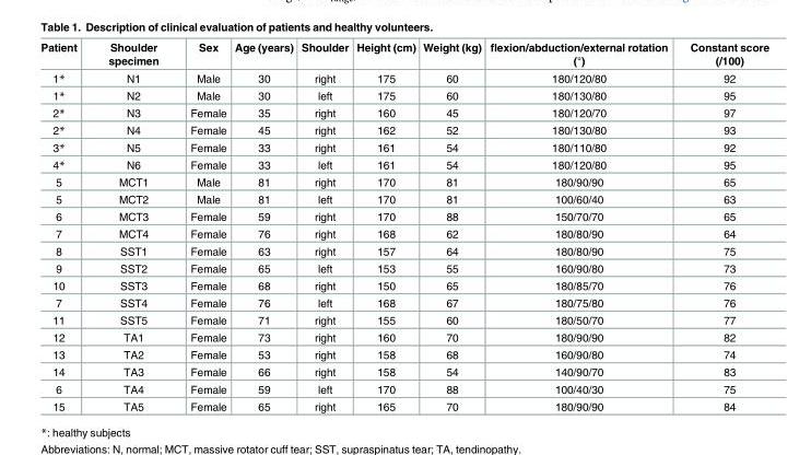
<table><thead><tr><td>Patient</td><td>Shoulder specimen</td><td>Sex</td><td>Age (years)</td><td>Shoulder</td><td>Height (cm)</td><td>Weight (kg)</td><td>flexion/abduction/external rotation (°)</td><td>Constant score (/100)</td></tr></thead><tbody><tr><td>1*</td><td>N1</td><td>Male</td><td>30</td><td>right</td><td>175</td><td>60</td><td>180/120/80</td><td>92</td></tr><tr><td>1*</td><td>N2</td><td>Male</td><td>30</td><td>left</td><td>175</td><td>60</td><td>180/130/80</td><td>95</td></tr><tr><td>2*</td><td>N3</td><td>Female</td><td>35</td><td>right</td><td>160</td><td>45</td><td>180/120/70</td><td>97</td></tr><tr><td>2*</td><td>N4</td><td>Female</td><td>45</td><td>right</td><td>162</td><td>52</td><td>180/130/80</td><td>93</td></tr><tr><td>3*</td><td>N5</td><td>Female</td><td>33</td><td>right</td><td>161</td><td>54</td><td>180/110/80</td><td>92</td></tr><tr><td>4*</td><td>N6</td><td>Female</td><td>33</td><td>left</td><td>161</td><td>54</td><td>180/120/80</td><td>95</td></tr><tr><td>5</td><td>MCT1</td><td>Male</td><td>81</td><td>right</td><td>170</td><td>81</td><td>180/90/90</td><td>65</td></tr><tr><td>5</td><td>MCT2</td><td>Male</td><td>81</td><td>left</td><td>170</td><td>81</td><td>100/60/40</td><td>63</td></tr><tr><td>6</td><td>MCT3</td><td>Female</td><td>59</td><td>right</td><td>170</td><td>88</td><td>150/70/70</td><td>65</td></tr><tr><td>7</td><td>MCT4</td><td>Female</td><td>76</td><td>right</td><td>168</td><td>62</td><td>180/80/90</td><td>64</td></tr><tr><td>8</td><td>SST1</td><td>Female</td><td>63</td><td>right</td><td>157</td><td>64</td><td>180/80/90</td><td>75</td></tr><tr><td>9</td><td>SST2</td><td>Female</td><td>65</td><td>left</td><td>153</td><td>55</td><td>160/90/80</td><td>73</td></tr><tr><td>10</td><td>SST3</td><td>Female</td><td>68</td><td>right</td><td>150</td><td>65</td><td>180/85/70</td><td>76</td></tr><tr><td>7</td><td>SST4</td><td>Female</td><td>76</td><td>left</td><td>168</td><td>67</td><td>180/75/80</td><td>76</td></tr><tr><td>11</td><td>SST5</td><td>Female</td><td>71</td><td>right</td><td>155</td><td>60</td><td>180/50/70</td><td>77</td></tr><tr><td>12</td><td>TA1</td><td>Female</td><td>73</td><td>right</td><td>160</td><td>70</td><td>180/90/90</td><td>82</td></tr><tr><td>13</td><td>TA2</td><td>Female</td><td>53</td><td>right</td><td>158</td><td>68</td><td>160/90/80</td><td>74</td></tr><tr><td>14</td><td>TA3</td><td>Female</td><td>66</td><td>right</td><td>158</td><td>54</td><td>140/90/70</td><td>83</td></tr><tr><td>6</td><td>TA4</td><td>Female</td><td>59</td><td>left</td><td>170</td><td>88</td><td>100/40/30</td><td>75</td></tr><tr><td>15</td><td>TA5</td><td>Female</td><td>65</td><td>right</td><td>165</td><td>70</td><td>180/90/90</td><td>84</td></tr></tbody></table>